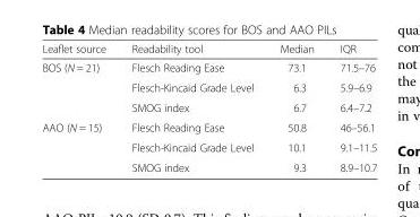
<table><thead><tr><td>Leaflet source</td><td>Readability tool</td><td>Median</td><td>IQR</td></tr></thead><tbody><tr><td rowspan="3">BOS (N = 21)</td><td>Flesch Reading Ease</td><td>73.1</td><td>71.5–76</td></tr><tr><td>Flesch-Kincaid Grade Level</td><td>6.3</td><td>5.9–6.9</td></tr><tr><td>SMOG index</td><td>6.7</td><td>6.4–7.2</td></tr><tr><td rowspan="3">AAO (N = 15)</td><td>Flesch Reading Ease</td><td>50.8</td><td>46–56.1</td></tr><tr><td>Flesch-Kincaid Grade Level</td><td>10.1</td><td>9.1–11.5</td></tr><tr><td>SMOG index</td><td>9.3</td><td>8.9–10.7</td></tr></tbody></table>